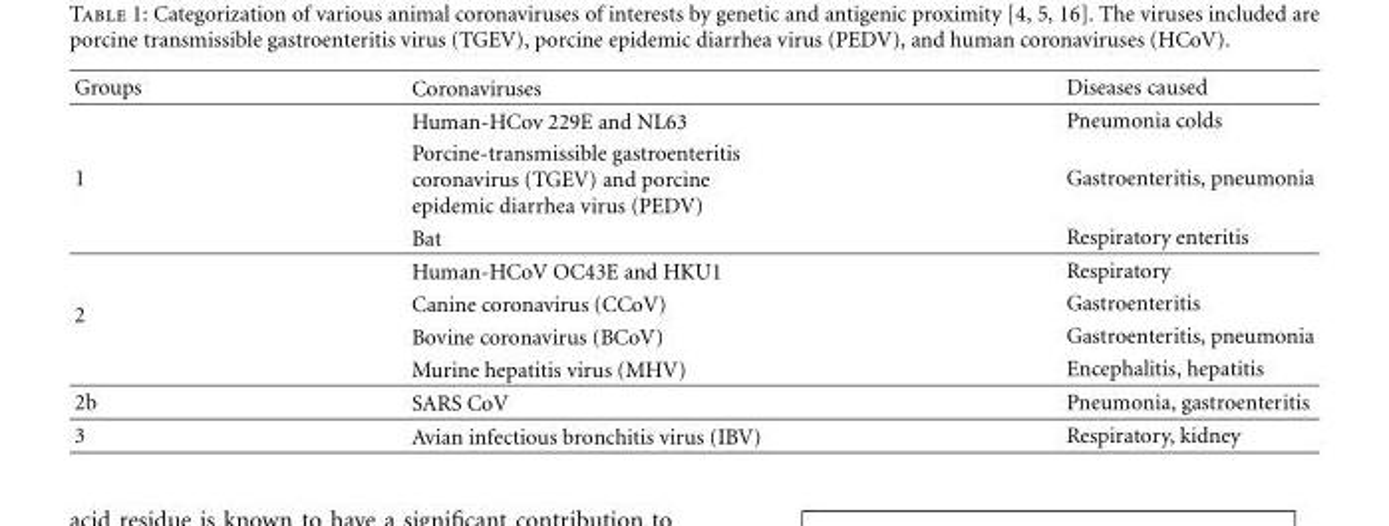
<table><thead><tr><td>Groups</td><td>Coronaviruses</td><td>Diseases caused</td></tr></thead><tbody><tr><td></td><td>Human-HCov 229E and NL63</td><td>Pneumonia colds</td></tr><tr><td rowspan="2">1</td><td>Porcine-transmissible gastroenteritis coronavirus (TGEV) and porcine epidemic diarrhea virus (PEDV)</td><td>Gastroenteritis, pneumonia</td></tr><tr><td>Bat</td><td>Respiratory enteritis</td></tr><tr><td rowspan="4">2</td><td>Human-HCoV OC43E and HKU1</td><td>Respiratory</td></tr><tr><td>Canine coronavirus (CCoV)</td><td>Gastroenteritis</td></tr><tr><td>Bovine coronavirus (BCoV)</td><td>Gastroenteritis, pneumonia</td></tr><tr><td>Murine hepatitis virus (MHV)</td><td>Encephalitis, hepatitis</td></tr><tr><td>2b</td><td>SARS CoV</td><td>Pneumonia, gastroenteritis</td></tr><tr><td>3</td><td>Avian infectious bronchitis virus (IBV)</td><td>Respiratory, kidney</td></tr></tbody></table>